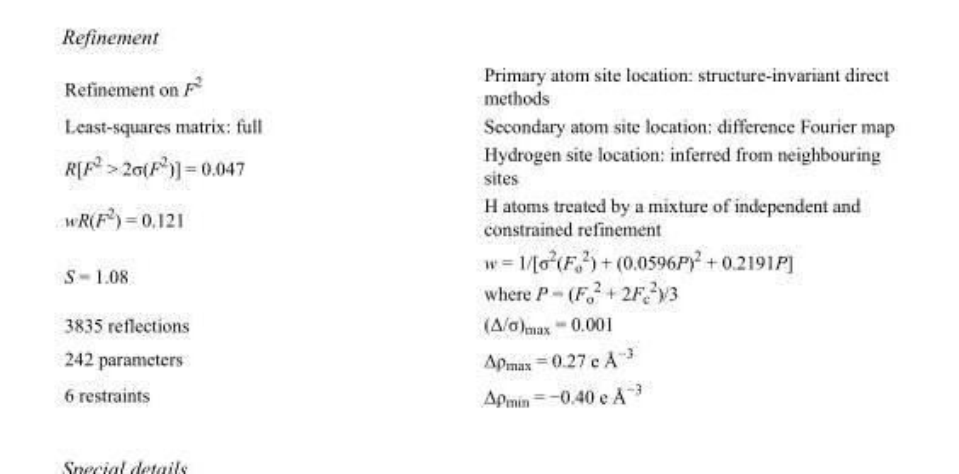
<table><tbody><tr><td>Refinement on F<sup>2</sup></td><td>Primary atom site location: structure-invariant direct methods</td></tr><tr><td>Least-squares matrix: full</td><td>Secondary atom site location: difference Fourier map</td></tr><tr><td>R[F<sup>2</sup> &gt; 2σ(F<sup>2</sup>)] = 0.047</td><td>Hydrogen site location: inferred from neighbouring sites</td></tr><tr><td>wR(F<sup>2</sup>) = 0.121</td><td>H atoms treated by a mixture of independent and constrained refinement</td></tr><tr><td>S = 1.08</td><td>w = 1/[σ<sup>2</sup>(F<sub>o</sub> <sup>2</sup>) + (0.0596P)<sup>2</sup> + 0.2191P] where P = (F<sub>o</sub> <sup>2</sup> + 2F<sub>c</sub> <sup>2</sup>)/3</td></tr><tr><td>3835 reflections</td><td>(Δ/σ)<sub>max</sub> = 0.001</td></tr><tr><td>242 parameters</td><td>Δρ<sub>max</sub> = 0.27 e Å<sup>−3</sup></td></tr><tr><td>6 restraints</td><td>Δρ<sub>min</sub> = −0.40 e Å<sup>−3</sup></td></tr></tbody></table>